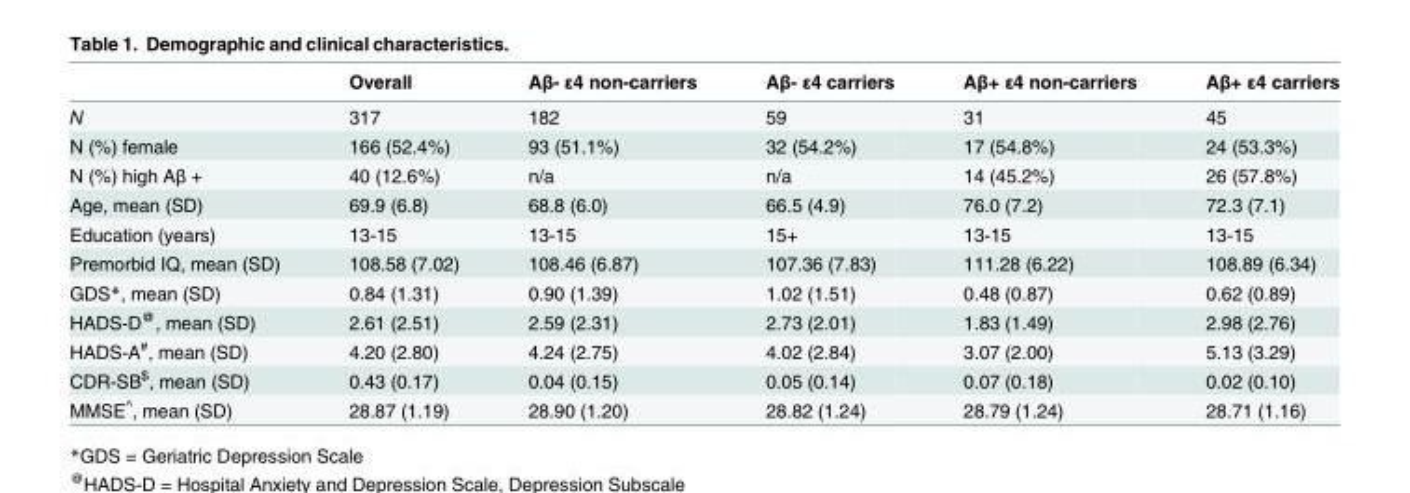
<table><thead><tr><td></td><td>Overall</td><td>Aβ- ε4 non-carriers</td><td>Aβ- ε4 carriers</td><td>Aβ+ ε4 non-carriers</td><td>Aβ+ ε4 carriers</td></tr></thead><tbody><tr><td>N</td><td>317</td><td>182</td><td>59</td><td>31</td><td>45</td></tr><tr><td>N (%) female</td><td>166 (52.4%)</td><td>93 (51.1%)</td><td>32 (54.2%)</td><td>17 (54.8%)</td><td>24 (53.3%)</td></tr><tr><td>N (%) high Aβ +</td><td>40 (12.6%)</td><td>n/a</td><td>n/a</td><td>14 (45.2%)</td><td>26 (57.8%)</td></tr><tr><td>Age, mean (SD)</td><td>69.9 (6.8)</td><td>68.8 (6.0)</td><td>66.5 (4.9)</td><td>76.0 (7.2)</td><td>72.3 (7.1)</td></tr><tr><td>Education (years)</td><td>13-15</td><td>13-15</td><td>15+</td><td>13-15</td><td>13-15</td></tr><tr><td>Premorbid IQ, mean (SD)</td><td>108.58 (7.02)</td><td>108.46 (6.87)</td><td>107.36 (7.83)</td><td>111.28 (6.22)</td><td>108.89 (6.34)</td></tr><tr><td>GDS*, mean (SD)</td><td>0.84 (1.31)</td><td>0.90 (1.39)</td><td>1.02 (1.51)</td><td>0.48 (0.87)</td><td>0.62 (0.89)</td></tr><tr><td>HADS-D<sup>@</sup>, mean (SD)</td><td>2.61 (2.51)</td><td>2.59 (2.31)</td><td>2.73 (2.01)</td><td>1.83 (1.49)</td><td>2.98 (2.76)</td></tr><tr><td>HADS-A<sup>#</sup>, mean (SD)</td><td>4.20 (2.80)</td><td>4.24 (2.75)</td><td>4.02 (2.84)</td><td>3.07 (2.00)</td><td>5.13 (3.29)</td></tr><tr><td>CDR-SB<sup>$</sup>, mean (SD)</td><td>0.43 (0.17)</td><td>0.04 (0.15)</td><td>0.05 (0.14)</td><td>0.07 (0.18)</td><td>0.02 (0.10)</td></tr><tr><td>MMSE<sup>^</sup>, mean (SD)</td><td>28.87 (1.19)</td><td>28.90 (1.20)</td><td>28.82 (1.24)</td><td>28.79 (1.24)</td><td>28.71 (1.16)</td></tr></tbody></table>